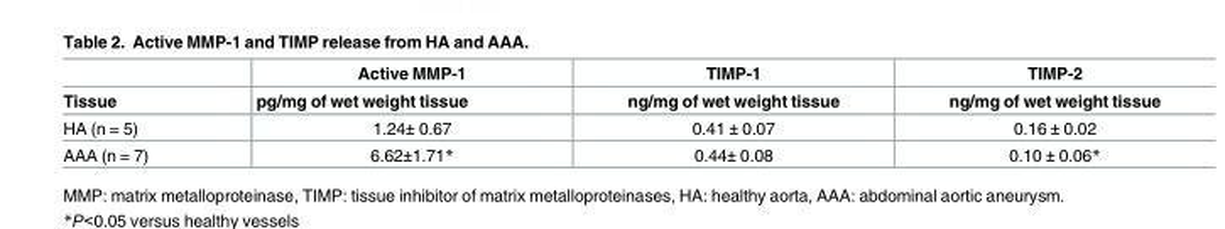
<table><thead><tr><td rowspan="2">Tissue</td><td rowspan="2">Active MMP-1 pg/mg of wet weight tissue</td><td rowspan="2">TIMP-1 ng/mg of wet weight tissue</td><td rowspan="2">TIMP-2 ng/mg of wet weight tissue</td></tr><tr></tr></thead><tbody><tr><td>HA (n = 5)</td><td>1.24± 0.67</td><td>0.41 ± 0.07</td><td>0.16 ± 0.02</td></tr><tr><td>AAA (n = 7)</td><td>6.62±1.71*</td><td>0.44± 0.08</td><td>0.10 ± 0.06*</td></tr></tbody></table>